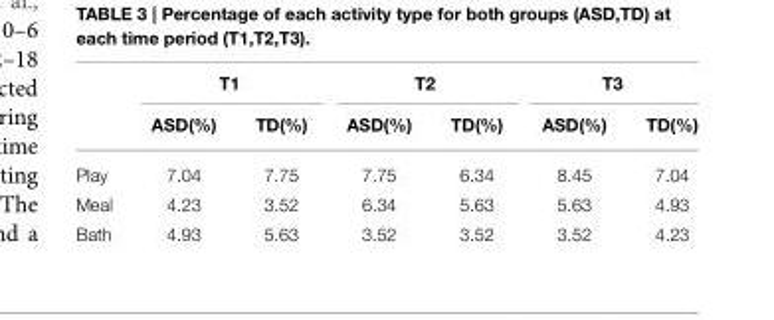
<table><thead><tr><td rowspan="2"></td><td colspan="2">T1</td><td colspan="2">T2</td><td colspan="2">T3</td></tr><tr><td>ASD(%)</td><td>TD(%)</td><td>ASD(%)</td><td>TD(%)</td><td>ASD(%)</td><td>TD(%)</td></tr></thead><tbody><tr><td>Play</td><td>7.04</td><td>7.75</td><td>7.75</td><td>6.34</td><td>8.45</td><td>7.04</td></tr><tr><td>Meal</td><td>4.23</td><td>3.52</td><td>6.34</td><td>5.63</td><td>5.63</td><td>4.93</td></tr><tr><td>Bath</td><td>4.93</td><td>5.63</td><td>3.52</td><td>3.52</td><td>3.52</td><td>4.23</td></tr></tbody></table>